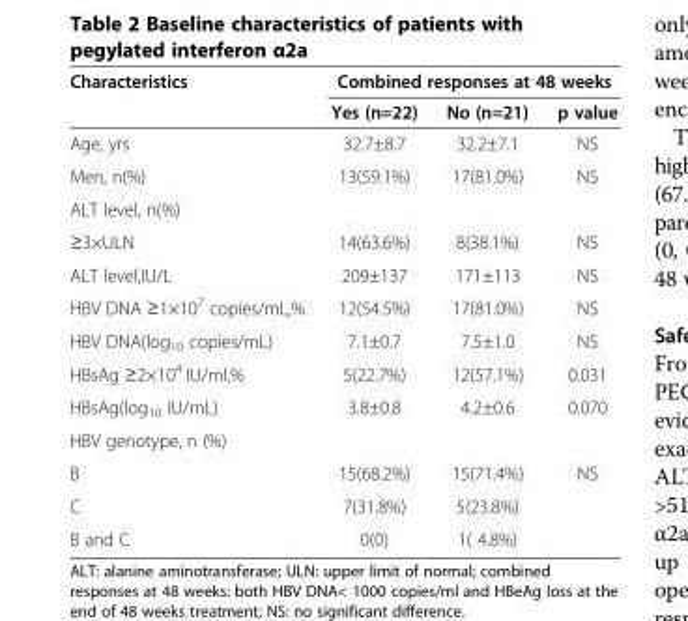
<table><thead><tr><td rowspan="2">Characteristics</td><td colspan="3">Combined responses at 48 weeks</td></tr><tr><td>Yes (n=22)</td><td>No (n=21)</td><td>p value</td></tr></thead><tbody><tr><td>Age, yrs</td><td>32.7±8.7</td><td>32.2±7.1</td><td>NS</td></tr><tr><td>Men, n(%)</td><td>13(59.1%)</td><td>17(81.0%)</td><td>NS</td></tr><tr><td colspan="4">ALT level, n(%)</td></tr><tr><td>≥3×ULN</td><td>14(63.6%)</td><td>8(38.1%)</td><td>NS</td></tr><tr><td>ALT level,IU/L</td><td>209±137</td><td>171±113</td><td>NS</td></tr><tr><td>HBV DNA ≥1×10<sup>7</sup> copies/mL,%</td><td>12(54.5%)</td><td>17(81.0%)</td><td>NS</td></tr><tr><td>HBV DNA(log<sub>10</sub> copies/mL)</td><td>7.1±0.7</td><td>7.5±1.0</td><td>NS</td></tr><tr><td>HBsAg ≥2×10<sup>4</sup> IU/ml,%</td><td>5(22.7%)</td><td>12(57.1%)</td><td>0.031</td></tr><tr><td>HBsAg(log<sub>10</sub> IU/mL)</td><td>3.8±0.8</td><td>4.2±0.6</td><td>0.070</td></tr><tr><td colspan="4">HBV genotype, n (%)</td></tr><tr><td>B</td><td>15(68.2%)</td><td>15(71.4%)</td><td>NS</td></tr><tr><td>C</td><td>7(31.8%)</td><td>5(23.8%)</td><td></td></tr><tr><td>B and C</td><td>0(0)</td><td>1( 4.8%)</td><td></td></tr></tbody></table>